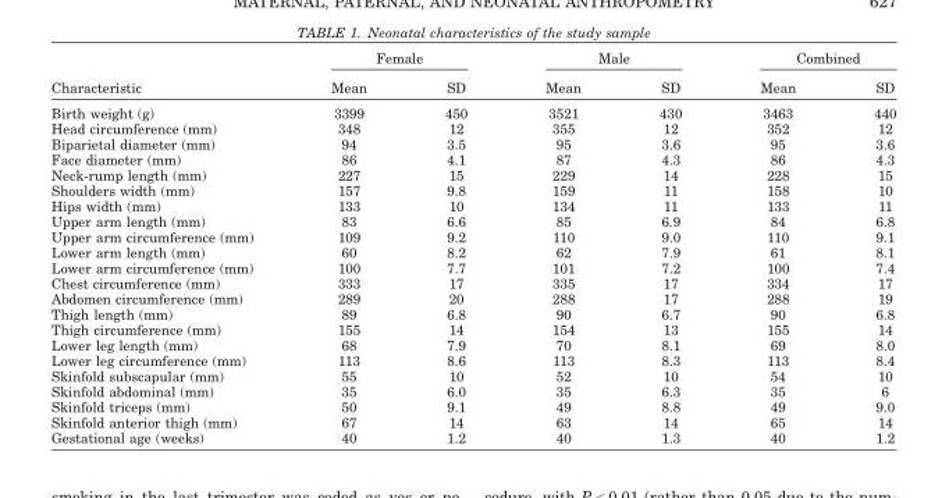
<table><thead><tr><td rowspan="2">Characteristic</td><td colspan="2">Female</td><td colspan="2">Male</td><td colspan="2">Combined</td></tr><tr><td>Mean</td><td>SD</td><td>Mean</td><td>SD</td><td>Mean</td><td>SD</td></tr></thead><tbody><tr><td>Birth weight (g)</td><td>3399</td><td>450</td><td>3521</td><td>430</td><td>3463</td><td>440</td></tr><tr><td>Head circumference (mm)</td><td>348</td><td>12</td><td>355</td><td>12</td><td>352</td><td>12</td></tr><tr><td>Biparietal diameter (mm)</td><td>94</td><td>3.5</td><td>95</td><td>3.6</td><td>95</td><td>3.6</td></tr><tr><td>Face diameter (mm)</td><td>86</td><td>4.1</td><td>87</td><td>4.3</td><td>86</td><td>4.3</td></tr><tr><td>Neck-rump length (mm)</td><td>227</td><td>15</td><td>229</td><td>14</td><td>228</td><td>15</td></tr><tr><td>Shoulders width (mm)</td><td>157</td><td>9.8</td><td>159</td><td>11</td><td>158</td><td>10</td></tr><tr><td>Hips width (mm)</td><td>133</td><td>10</td><td>134</td><td>11</td><td>133</td><td>11</td></tr><tr><td>Upper arm length (mm)</td><td>83</td><td>6.6</td><td>85</td><td>6.9</td><td>84</td><td>6.8</td></tr><tr><td>Upper arm circumference (mm)</td><td>109</td><td>9.2</td><td>110</td><td>9.0</td><td>110</td><td>9.1</td></tr><tr><td>Lower arm length (mm)</td><td>60</td><td>8.2</td><td>62</td><td>7.9</td><td>61</td><td>8.1</td></tr><tr><td>Lower arm circumference (mm)</td><td>100</td><td>7.7</td><td>101</td><td>7.2</td><td>100</td><td>7.4</td></tr><tr><td>Chest circumference (mm)</td><td>333</td><td>17</td><td>335</td><td>17</td><td>334</td><td>17</td></tr><tr><td>Abdomen circumference (mm)</td><td>289</td><td>20</td><td>288</td><td>17</td><td>288</td><td>19</td></tr><tr><td>Thigh length (mm)</td><td>89</td><td>6.8</td><td>90</td><td>6.7</td><td>90</td><td>6.8</td></tr><tr><td>Thigh circumference (mm)</td><td>155</td><td>14</td><td>154</td><td>13</td><td>155</td><td>14</td></tr><tr><td>Lower leg length (mm)</td><td>68</td><td>7.9</td><td>70</td><td>8.1</td><td>69</td><td>8.0</td></tr><tr><td>Lower leg circumference (mm)</td><td>113</td><td>8.6</td><td>113</td><td>8.3</td><td>113</td><td>8.4</td></tr><tr><td>Skinfold subscapular (mm)</td><td>55</td><td>10</td><td>52</td><td>10</td><td>54</td><td>10</td></tr><tr><td>Skinfold abdominal (mm)</td><td>35</td><td>6.0</td><td>35</td><td>6.3</td><td>35</td><td>6</td></tr><tr><td>Skinfold triceps (mm)</td><td>50</td><td>9.1</td><td>49</td><td>8.8</td><td>49</td><td>9.0</td></tr><tr><td>Skinfold anterior thigh (mm)</td><td>67</td><td>14</td><td>63</td><td>14</td><td>65</td><td>14</td></tr><tr><td>Gestational age (weeks)</td><td>40</td><td>1.2</td><td>40</td><td>1.3</td><td>40</td><td>1.2</td></tr></tbody></table>